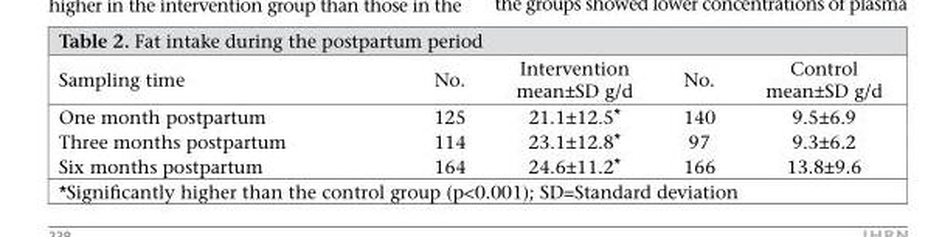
<table><thead><tr><td>Sampling time</td><td>No.</td><td>Intervention mean±SD g/d</td><td>No.</td><td>Control mean±SD g/d</td></tr></thead><tbody><tr><td>One month postpartum</td><td>125</td><td>21.1±12.5*</td><td>140</td><td>9.5±6.9</td></tr><tr><td>Three months postpartum</td><td>114</td><td>23.1±12.8*</td><td>97</td><td>9.3±6.2</td></tr><tr><td>Six months postpartum</td><td>164</td><td>24.6±11.2*</td><td>166</td><td>13.8±9.6</td></tr></tbody></table>